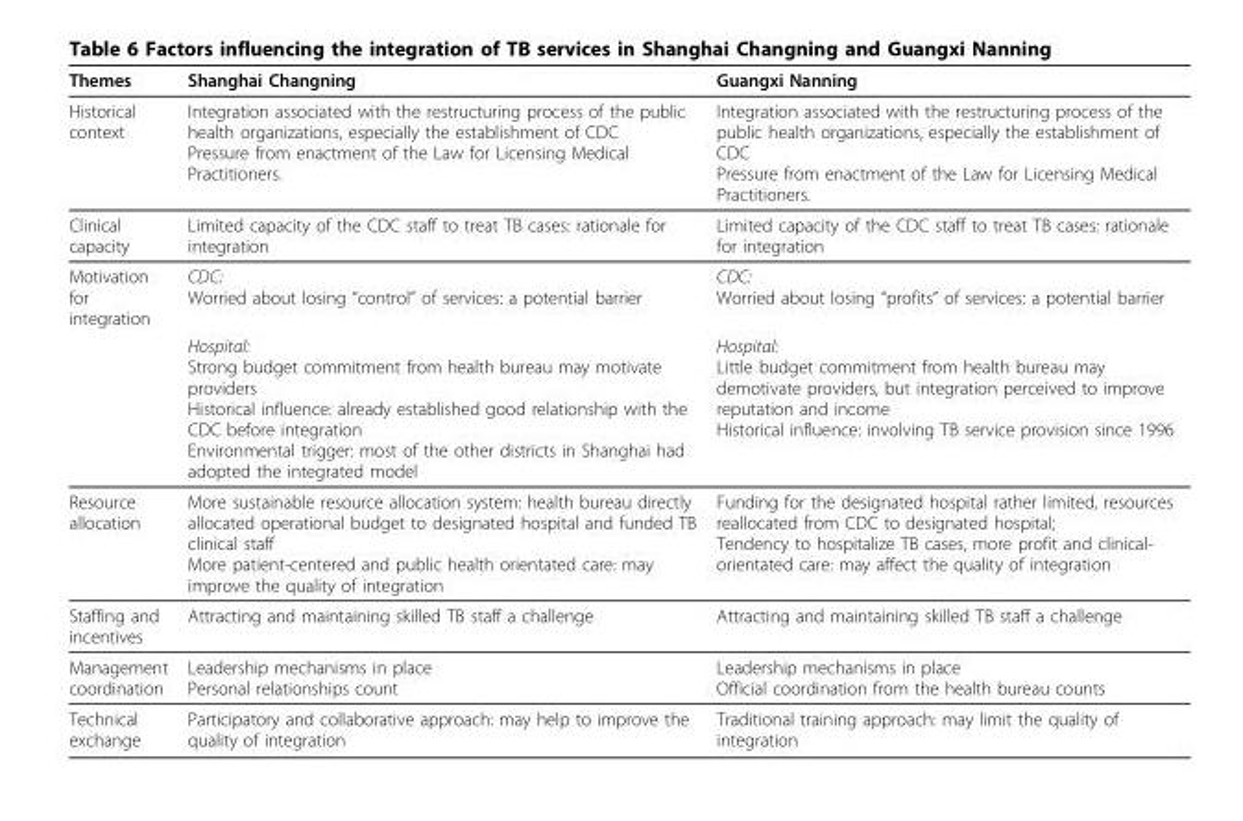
<table><thead><tr><td>Themes</td><td>Shanghai Changning</td><td>Guangxi Nanning</td></tr></thead><tbody><tr><td>Historical context</td><td>Integration associated with the restructuring process of the public health organizations, especially the establishment of CDC Pressure from enactment of the Law for Licensing Medical Practitioners.</td><td>Integration associated with the restructuring process of the public health organizations, especially the establishment of CDC Pressure from enactment of the Law for Licensing Medical Practitioners.</td></tr><tr><td>Clinical capacity</td><td>Limited capacity of the CDC staff to treat TB cases: rationale for integration</td><td>Limited capacity of the CDC staff to treat TB cases: rationale for integration</td></tr><tr><td rowspan="2">Motivation for integration</td><td>CDC: Worried about losing “control” of services: a potential barrier</td><td>CDC: Worried about losing “profits” of services: a potential barrier</td></tr><tr><td>Hospital: Strong budget commitment from health bureau may motivate providers Historical influence: already established good relationship with the CDC before integration Environmental trigger: most of the other districts in Shanghai had adopted the integrated model</td><td>Hospital: Little budget commitment from health bureau may demotivate providers, but integration perceived to improve reputation and income Historical influence: involving TB service provision since 1996</td></tr><tr><td>Resource allocation</td><td>More sustainable resource allocation system: health bureau directly allocated operational budget to designated hospital and funded TB clinical staff More patient-centered and public health orientated care: may improve the quality of integration</td><td>Funding for the designated hospital rather limited, resources reallocated from CDC to designated hospital; Tendency to hospitalize TB cases, more profit and clinical- orientated care: may affect the quality of integration</td></tr><tr><td>Staffing and incentives</td><td>Attracting and maintaining skilled TB staff a challenge</td><td>Attracting and maintaining skilled TB staff a challenge</td></tr><tr><td>Management coordination</td><td>Leadership mechanisms in place Personal relationships count</td><td>Leadership mechanisms in place Official coordination from the health bureau counts</td></tr><tr><td>Technical exchange</td><td>Participatory and collaborative approach: may help to improve the quality of integration</td><td>Traditional training approach: may limit the quality of integration</td></tr></tbody></table>